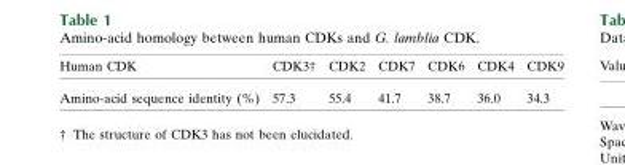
<table><thead><tr><td>Human CDK</td><td>CDK3†</td><td>CDK2</td><td>CDK7</td><td>CDK6</td><td>CDK4</td><td>CDK9</td></tr></thead><tbody><tr><td>Amino-acid sequence identity (%)</td><td>57.3</td><td>55.4</td><td>41.7</td><td>38.7</td><td>36.0</td><td>34.3</td></tr></tbody></table>